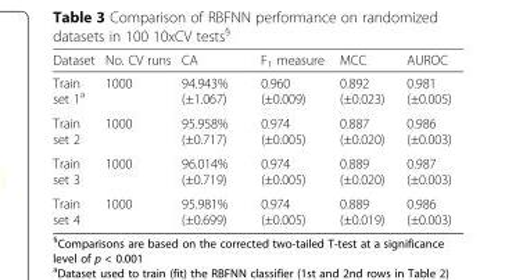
<table><thead><tr><td>Dataset</td><td>No. CV runs</td><td>CA</td><td>F<sub>1</sub> measure</td><td>MCC</td><td>AUROC</td></tr></thead><tbody><tr><td>Train set 1<sup>a</sup></td><td>1000</td><td>94.943% (±1.067)</td><td>0.960 (±0.009)</td><td>0.892 (±0.023)</td><td>0.981 (±0.005)</td></tr><tr><td>Train set 2</td><td>1000</td><td>95.958% (±0.717)</td><td>0.974 (±0.005)</td><td>0.887 (±0.020)</td><td>0.986 (±0.003)</td></tr><tr><td>Train set 3</td><td>1000</td><td>96.014% (±0.719)</td><td>0.974 (±0.005)</td><td>0.889 (±0.020)</td><td>0.987 (±0.003)</td></tr><tr><td>Train set 4</td><td>1000</td><td>95.981% (±0.699)</td><td>0.974 (±0.005)</td><td>0.889 (±0.019)</td><td>0.986 (±0.003)</td></tr></tbody></table>